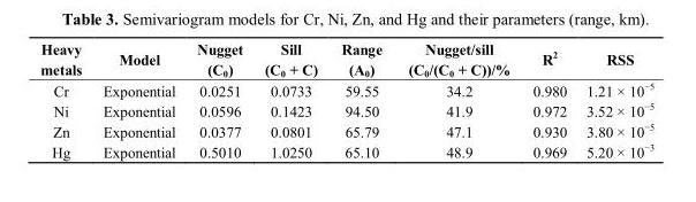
<table><thead><tr><td>Heavy metals</td><td>Model</td><td>Nugget (C<sub>0</sub>)</td><td>Sill (C<sub>0</sub> + C)</td><td>Range (A<sub>0</sub>)</td><td>Nugget/sill (C<sub>0</sub>/(C<sub>0</sub> + C))/%</td><td>R<sup>2</sup></td><td>RSS</td></tr></thead><tbody><tr><td>Cr</td><td>Exponential</td><td>0.0251</td><td>0.0733</td><td>59.55</td><td>34.2</td><td>0.980</td><td>1.21 × 10<sup>−5</sup></td></tr><tr><td>Ni</td><td>Exponential</td><td>0.0596</td><td>0.1423</td><td>94.50</td><td>41.9</td><td>0.972</td><td>3.52 × 10<sup>−5</sup></td></tr><tr><td>Zn</td><td>Exponential</td><td>0.0377</td><td>0.0801</td><td>65.79</td><td>47.1</td><td>0.930</td><td>3.80 × 10<sup>−5</sup></td></tr><tr><td>Hg</td><td>Exponential</td><td>0.5010</td><td>1.0250</td><td>65.10</td><td>48.9</td><td>0.969</td><td>5.20 × 10<sup>−3</sup></td></tr></tbody></table>